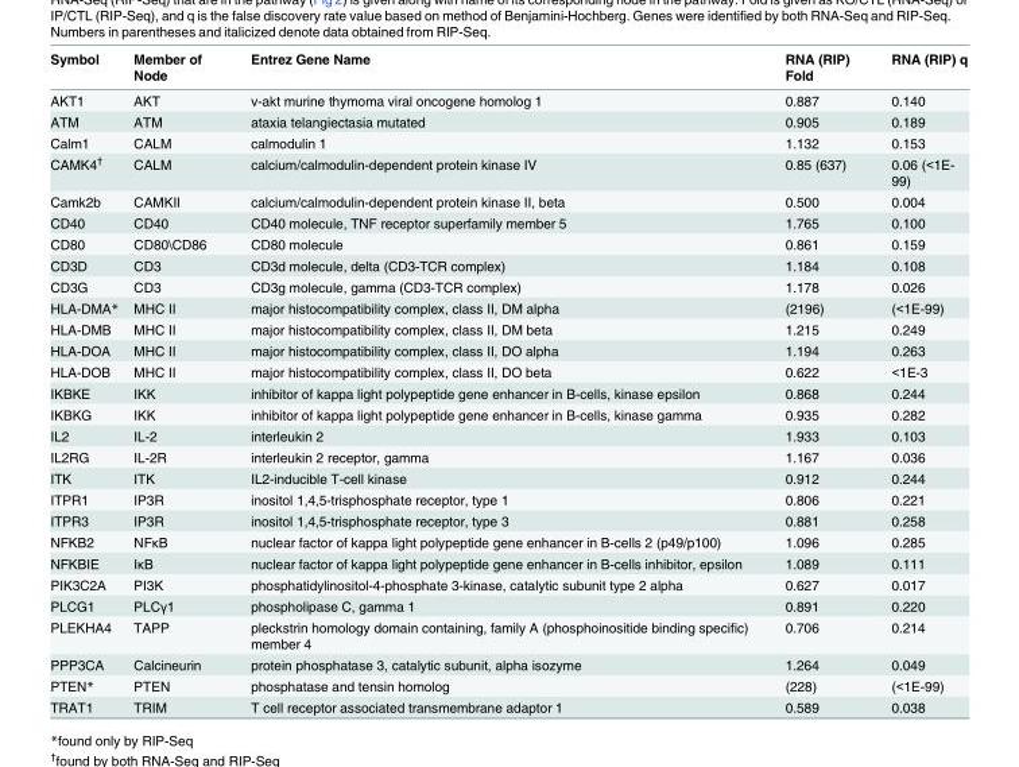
<table><thead><tr><td>Symbol</td><td>Member of Node</td><td>Entrez Gene Name</td><td>RNA (RIP) Fold</td><td>RNA (RIP) q</td></tr></thead><tbody><tr><td>AKT1</td><td>AKT</td><td>v-akt murine thymoma viral oncogene homolog 1</td><td>0.887</td><td>0.140</td></tr><tr><td>ATM</td><td>ATM</td><td>ataxia telangiectasia mutated</td><td>0.905</td><td>0.189</td></tr><tr><td>Calm1</td><td>CALM</td><td>calmodulin 1</td><td>1.132</td><td>0.153</td></tr><tr><td>CAMK4<sup>†</sup></td><td>CALM</td><td>calcium/calmodulin-dependent protein kinase IV</td><td>0.85 (637)</td><td>0.06 (&lt;1E- 99)</td></tr><tr><td>Camk2b</td><td>CAMKII</td><td>calcium/calmodulin-dependent protein kinase II, beta</td><td>0.500</td><td>0.004</td></tr><tr><td>CD40</td><td>CD40</td><td>CD40 molecule, TNF receptor superfamily member 5</td><td>1.765</td><td>0.100</td></tr><tr><td>CD80</td><td>CD80\CD86</td><td>CD80 molecule</td><td>0.861</td><td>0.159</td></tr><tr><td>CD3D</td><td>CD3</td><td>CD3d molecule, delta (CD3-TCR complex)</td><td>1.184</td><td>0.108</td></tr><tr><td>CD3G</td><td>CD3</td><td>CD3g molecule, gamma (CD3-TCR complex)</td><td>1.178</td><td>0.026</td></tr><tr><td>HLA-DMA*</td><td>MHC II</td><td>major histocompatibility complex, class II, DM alpha</td><td>(2196)</td><td>(&lt;1E-99)</td></tr><tr><td>HLA-DMB</td><td>MHC II</td><td>major histocompatibility complex, class II, DM beta</td><td>1.215</td><td>0.249</td></tr><tr><td>HLA-DOA</td><td>MHC II</td><td>major histocompatibility complex, class II, DO alpha</td><td>1.194</td><td>0.263</td></tr><tr><td>HLA-DOB</td><td>MHC II</td><td>major histocompatibility complex, class II, DO beta</td><td>0.622</td><td>&lt;1E-3</td></tr><tr><td>IKBKE</td><td>IKK</td><td>inhibitor of kappa light polypeptide gene enhancer in B-cells, kinase epsilon</td><td>0.868</td><td>0.244</td></tr><tr><td>IKBKG</td><td>IKK</td><td>inhibitor of kappa light polypeptide gene enhancer in B-cells, kinase gamma</td><td>0.935</td><td>0.282</td></tr><tr><td>IL2</td><td>IL-2</td><td>interleukin 2</td><td>1.933</td><td>0.103</td></tr><tr><td>IL2RG</td><td>IL-2R</td><td>interleukin 2 receptor, gamma</td><td>1.167</td><td>0.036</td></tr><tr><td>ITK</td><td>ITK</td><td>IL2-inducible T-cell kinase</td><td>0.912</td><td>0.244</td></tr><tr><td>ITPR1</td><td>IP3R</td><td>inositol 1,4,5-trisphosphate receptor, type 1</td><td>0.806</td><td>0.221</td></tr><tr><td>ITPR3</td><td>IP3R</td><td>inositol 1,4,5-trisphosphate receptor, type 3</td><td>0.881</td><td>0.258</td></tr><tr><td>NFKB2</td><td>NFκB</td><td>nuclear factor of kappa light polypeptide gene enhancer in B-cells 2 (p49/p100)</td><td>1.096</td><td>0.285</td></tr><tr><td>NFKBIE</td><td>IκB</td><td>nuclear factor of kappa light polypeptide gene enhancer in B-cells inhibitor, epsilon</td><td>1.089</td><td>0.111</td></tr><tr><td>PIK3C2A</td><td>PI3K</td><td>phosphatidylinositol-4-phosphate 3-kinase, catalytic subunit type 2 alpha</td><td>0.627</td><td>0.017</td></tr><tr><td>PLCG1</td><td>PLCγ1</td><td>phospholipase C, gamma 1</td><td>0.891</td><td>0.220</td></tr><tr><td>PLEKHA4</td><td>TAPP</td><td>pleckstrin homology domain containing, family A (phosphoinositide binding specific) member 4</td><td>0.706</td><td>0.214</td></tr><tr><td>PPP3CA</td><td>Calcineurin</td><td>protein phosphatase 3, catalytic subunit, alpha isozyme</td><td>1.264</td><td>0.049</td></tr><tr><td>PTEN*</td><td>PTEN</td><td>phosphatase and tensin homolog</td><td>(228)</td><td>(&lt;1E-99)</td></tr><tr><td>TRAT1</td><td>TRIM</td><td>T cell receptor associated transmembrane adaptor 1</td><td>0.589</td><td>0.038</td></tr></tbody></table>